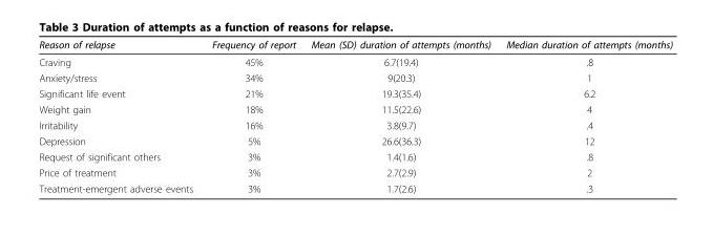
<table><thead><tr><td>Reason of relapse</td><td>Frequency of report</td><td>Mean (SD) duration of attempts (months)</td><td>Median duration of attempts (months)</td></tr></thead><tbody><tr><td>Craving</td><td>45%</td><td>6.7(19.4)</td><td>.8</td></tr><tr><td>Anxiety/stress</td><td>34%</td><td>9(20.3)</td><td>1</td></tr><tr><td>Significant life event</td><td>21%</td><td>19.3(35.4)</td><td>6.2</td></tr><tr><td>Weight gain</td><td>18%</td><td>11.5(22.6)</td><td>4</td></tr><tr><td>Irritability</td><td>16%</td><td>3.8(9.7)</td><td>.4</td></tr><tr><td>Depression</td><td>5%</td><td>26.6(36.3)</td><td>12</td></tr><tr><td>Request of significant others</td><td>3%</td><td>1.4(1.6)</td><td>.8</td></tr><tr><td>Price of treatment</td><td>3%</td><td>2.7(2.9)</td><td>2</td></tr><tr><td>Treatment-emergent adverse events</td><td>3%</td><td>1.7(2.6)</td><td>.3</td></tr></tbody></table>